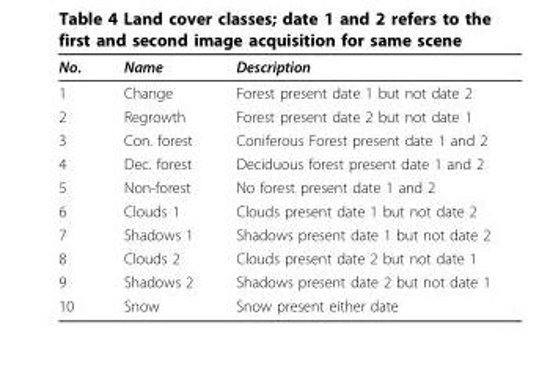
<table><thead><tr><td>No.</td><td>Name</td><td>Description</td></tr></thead><tbody><tr><td>1</td><td>Change</td><td>Forest present date 1 but not date 2</td></tr><tr><td>2</td><td>Regrowth</td><td>Forest present date 2 but not date 1</td></tr><tr><td>3</td><td>Con. forest</td><td>Coniferous Forest present date 1 and 2</td></tr><tr><td>4</td><td>Dec. forest</td><td>Deciduous forest present date 1 and 2</td></tr><tr><td>5</td><td>Non-forest</td><td>No forest present date 1 and 2</td></tr><tr><td>6</td><td>Clouds 1</td><td>Clouds present date 1 but not date 2</td></tr><tr><td>7</td><td>Shadows 1</td><td>Shadows present date 1 but not date 2</td></tr><tr><td>8</td><td>Clouds 2</td><td>Clouds present date 2 but not date 1</td></tr><tr><td>9</td><td>Shadows 2</td><td>Shadows present date 2 but not date 1</td></tr><tr><td>10</td><td>Snow</td><td>Snow present either date</td></tr></tbody></table>